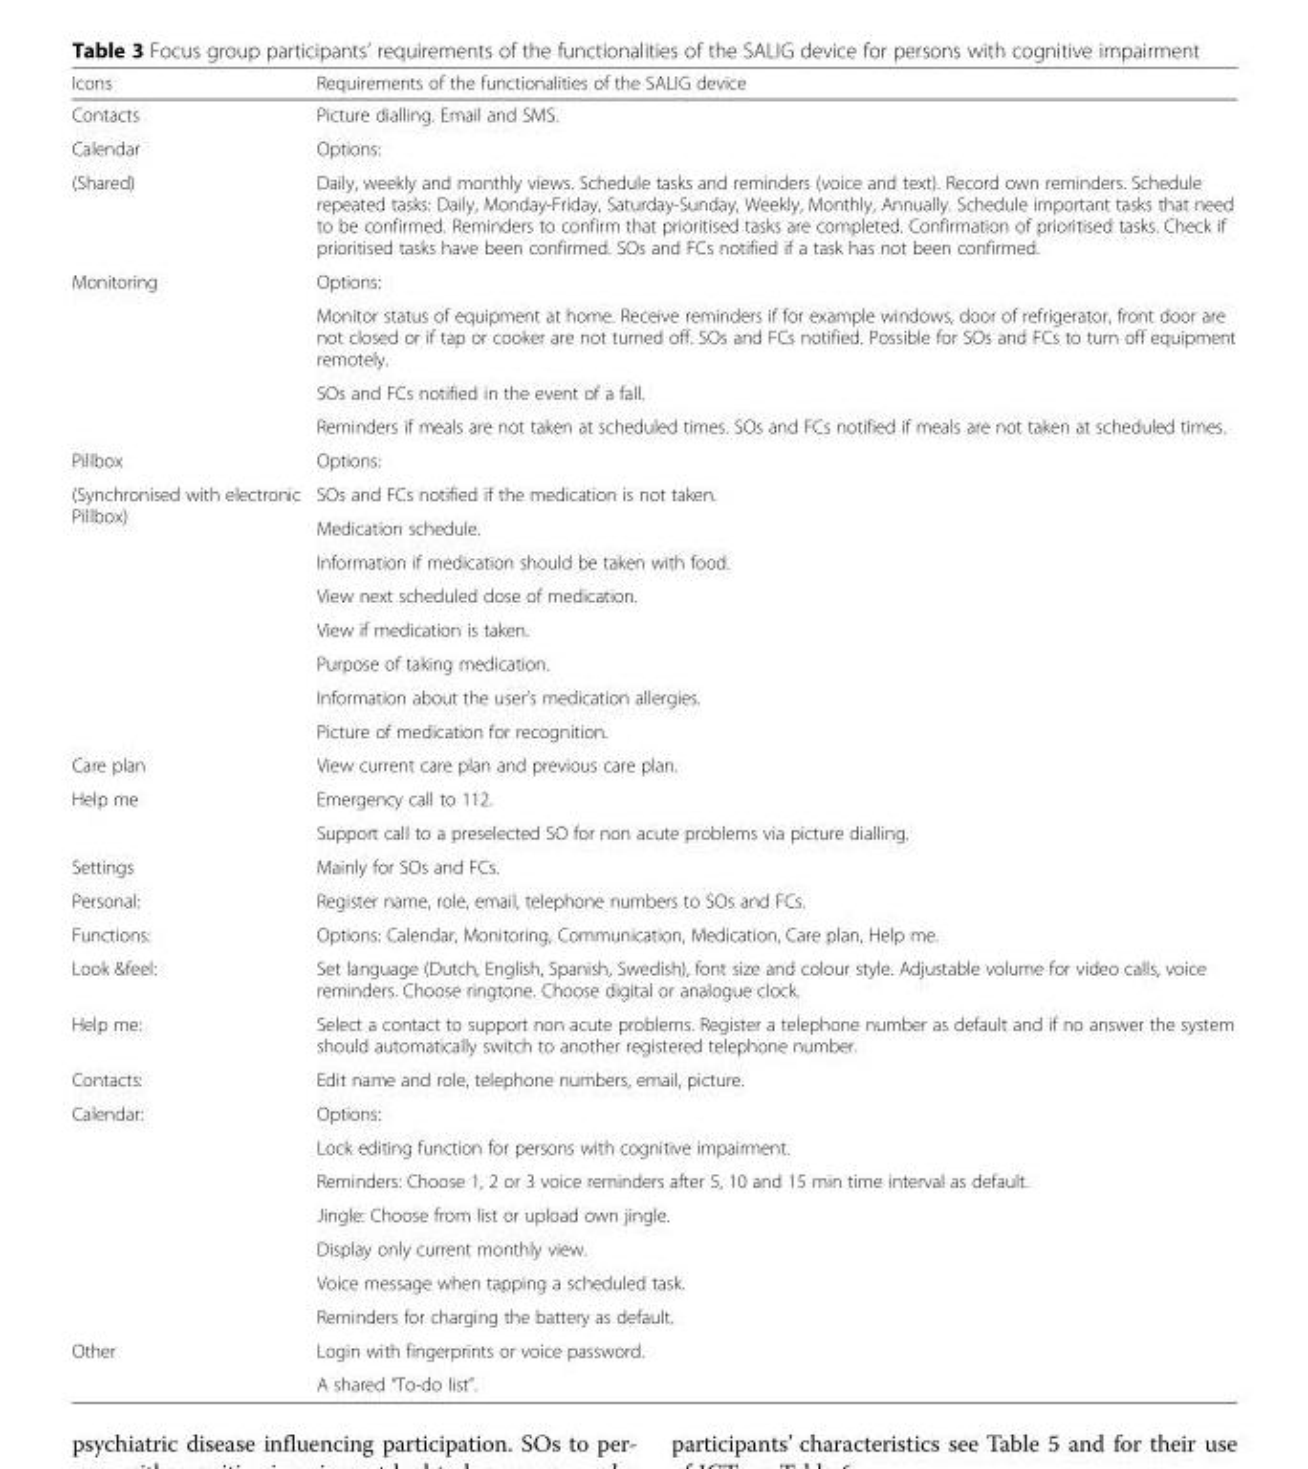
<table><thead><tr><td>Icons</td><td>Requirements of the functionalities of the SALIG device</td></tr></thead><tbody><tr><td>Contacts</td><td>Picture dialling. Email and SMS.</td></tr><tr><td>Calendar</td><td>Options:</td></tr><tr><td>(Shared)</td><td>Daily, weekly and monthly views. Schedule tasks and reminders (voice and text). Record own reminders. Schedule repeated tasks: Daily, Monday-Friday, Saturday-Sunday, Weekly, Monthly, Annually. Schedule important tasks that need to be confirmed. Reminders to confirm that prioritised tasks are completed. Confirmation of prioritised tasks. Check if prioritised tasks have been confirmed. SOs and FCs notified if a task has not been confirmed.</td></tr><tr><td rowspan="4">Monitoring</td><td>Options:</td></tr><tr><td>Monitor status of equipment at home. Receive reminders if for example windows, door of refrigerator, front door are not closed or if tap or cooker are not turned off. SOs and FCs notified. Possible for SOs and FCs to turn off equipment remotely.</td></tr><tr><td>SOs and FCs notified in the event of a fall.</td></tr><tr><td>Reminders if meals are not taken at scheduled times. SOs and FCs notified if meals are not taken at scheduled times.</td></tr><tr><td>Pillbox</td><td>Options:</td></tr><tr><td rowspan="8">(Synchronised with electronic Pillbox)</td><td>SOs and FCs notified if the medication is not taken.</td></tr><tr><td>Medication schedule.</td></tr><tr><td>Information if medication should be taken with food.</td></tr><tr><td>View next scheduled dose of medication.</td></tr><tr><td>View if medication is taken.</td></tr><tr><td>Purpose of taking medication.</td></tr><tr><td>Information about the user’s medication allergies.</td></tr><tr><td>Picture of medication for recognition.</td></tr><tr><td>Care plan</td><td>View current care plan and previous care plan.</td></tr><tr><td rowspan="2">Help me</td><td>Emergency call to 112.</td></tr><tr><td>Support call to a preselected SO for non acute problems via picture dialling.</td></tr><tr><td>Settings</td><td>Mainly for SOs and FCs.</td></tr><tr><td>Personal:</td><td>Register name, role, email, telephone numbers to SOs and FCs.</td></tr><tr><td>Functions:</td><td>Options: Calendar, Monitoring, Communication, Medication, Care plan, Help me.</td></tr><tr><td>Look &amp;feel:</td><td>Set language (Dutch, English, Spanish, Swedish), font size and colour style. Adjustable volume for video calls, voice reminders. Choose ringtone. Choose digital or analogue clock.</td></tr><tr><td>Help me:</td><td>Select a contact to support non acute problems. Register a telephone number as default and if no answer the system should automatically switch to another registered telephone number.</td></tr><tr><td>Contacts:</td><td>Edit name and role, telephone numbers, email, picture.</td></tr><tr><td rowspan="7">Calendar:</td><td>Options:</td></tr><tr><td>Lock editing function for persons with cognitive impairment.</td></tr><tr><td>Reminders: Choose 1, 2 or 3 voice reminders after 5, 10 and 15 min time interval as default.</td></tr><tr><td>Jingle: Choose from list or upload own jingle.</td></tr><tr><td>Display only current monthly view.</td></tr><tr><td>Voice message when tapping a scheduled task.</td></tr><tr><td>Reminders for charging the battery as default.</td></tr><tr><td rowspan="2">Other</td><td>Login with fingerprints or voice password.</td></tr><tr><td>A shared “To-do list”.</td></tr></tbody></table>